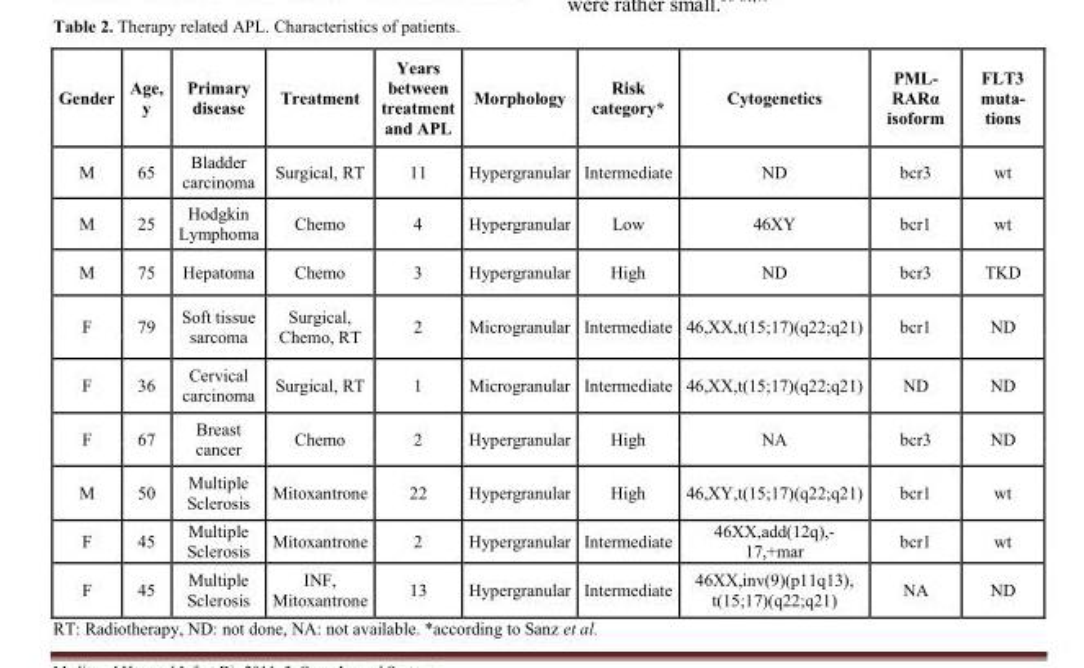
<table><thead><tr><td>Gender</td><td>Age, y</td><td>Primary disease</td><td>Treatment</td><td>Years between treatment and APL</td><td>Morphology</td><td>Risk category*</td><td>Cytogenetics</td><td>PML- RARα isoform</td><td>FLT3 muta- tions</td></tr></thead><tbody><tr><td>M</td><td>65</td><td>Bladder carcinoma</td><td>Surgical, RT</td><td>11</td><td>Hypergranular</td><td>Intermediate</td><td>ND</td><td>bcr3</td><td>wt</td></tr><tr><td>M</td><td>25</td><td>Hodgkin Lymphoma</td><td>Chemo</td><td>4</td><td>Hypergranular</td><td>Low</td><td>46XY</td><td>bcr1</td><td>wt</td></tr><tr><td>M</td><td>75</td><td>Hepatoma</td><td>Chemo</td><td>3</td><td>Hypergranular</td><td>High</td><td>ND</td><td>bcr3</td><td>TKD</td></tr><tr><td>F</td><td>79</td><td>Soft tissue sarcoma</td><td>Surgical, Chemo, RT</td><td>2</td><td>Microgranular</td><td>Intermediate</td><td>46,XX,t(15;17)(q22;q21)</td><td>bcr1</td><td>ND</td></tr><tr><td>F</td><td>36</td><td>Cervical carcinoma</td><td>Surgical, RT</td><td>1</td><td>Microgranular</td><td>Intermediate</td><td>46,XX,t(15;17)(q22;q21)</td><td>ND</td><td>ND</td></tr><tr><td>F</td><td>67</td><td>Breast cancer</td><td>Chemo</td><td>2</td><td>Hypergranular</td><td>High</td><td>NA</td><td>bcr3</td><td>ND</td></tr><tr><td>M</td><td>50</td><td>Multiple Sclerosis</td><td>Mitoxantrone</td><td>22</td><td>Hypergranular</td><td>High</td><td>46,XY,t(15;17)(q22;q21)</td><td>bcr1</td><td>wt</td></tr><tr><td>F</td><td>45</td><td>Multiple Sclerosis</td><td>Mitoxantrone</td><td>2</td><td>Hypergranular</td><td>Intermediate</td><td>46XX,add(12q),- 17,+mar</td><td>bcr1</td><td>wt</td></tr><tr><td>F</td><td>45</td><td>Multiple Sclerosis</td><td>INF, Mitoxantrone</td><td>13</td><td>Hypergranular</td><td>Intermediate</td><td>46ΧΧ,inv(9)(p11q13), t(15;17)(q22;q21)</td><td>NA</td><td>ND</td></tr></tbody></table>